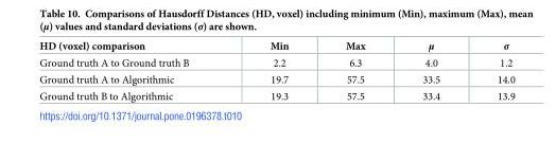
<table><thead><tr><td>HD (voxel) comparison</td><td>Min</td><td>Max</td><td>μ</td><td>σ</td></tr></thead><tbody><tr><td>Ground truth A to Ground truth B</td><td>2.2</td><td>6.3</td><td>4.0</td><td>1.2</td></tr><tr><td>Ground truth A to Algorithmic</td><td>19.7</td><td>57.5</td><td>33.5</td><td>14.0</td></tr><tr><td>Ground truth B to Algorithmic</td><td>19.3</td><td>57.5</td><td>33.4</td><td>13.9</td></tr></tbody></table>